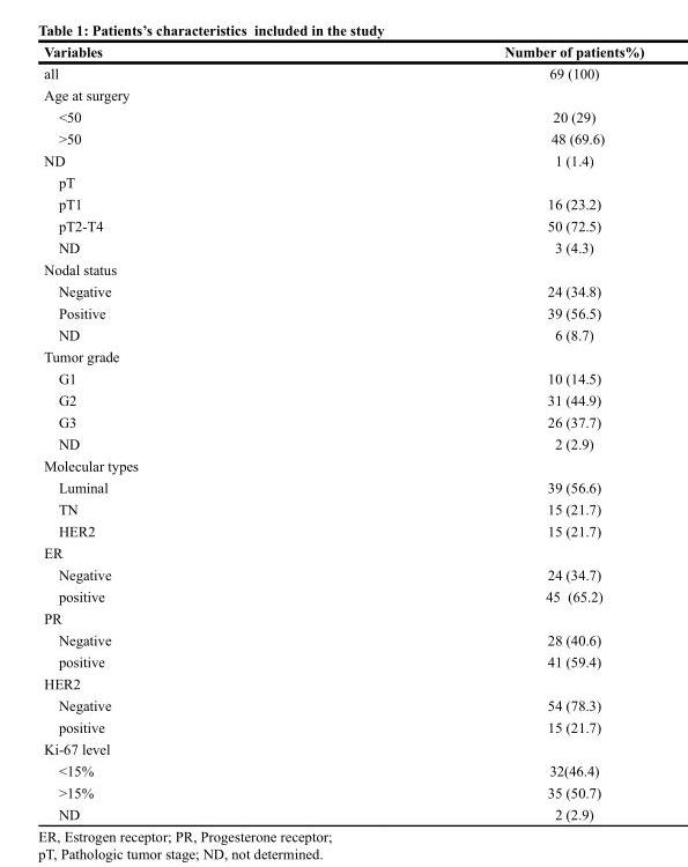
<table><thead><tr><td>Variables</td><td>Number of patients%)</td></tr></thead><tbody><tr><td>all</td><td>69 (100)</td></tr><tr><td colspan="2">Age at surgery</td></tr><tr><td>&lt;50</td><td>20 (29)</td></tr><tr><td>&gt;50</td><td>48 (69.6)</td></tr><tr><td>ND</td><td>1 (1.4)</td></tr><tr><td colspan="2">pT</td></tr><tr><td>pT1</td><td>16 (23.2)</td></tr><tr><td>pT2-T4</td><td>50 (72.5)</td></tr><tr><td>ND</td><td>3 (4.3)</td></tr><tr><td colspan="2">Nodal status</td></tr><tr><td>Negative</td><td>24 (34.8)</td></tr><tr><td>Positive</td><td>39 (56.5)</td></tr><tr><td>ND</td><td>6 (8.7)</td></tr><tr><td colspan="2">Tumor grade</td></tr><tr><td>G1</td><td>10 (14.5)</td></tr><tr><td>G2</td><td>31 (44.9)</td></tr><tr><td>G3</td><td>26 (37.7)</td></tr><tr><td>ND</td><td>2 (2.9)</td></tr><tr><td colspan="2">Molecular types</td></tr><tr><td>Luminal</td><td>39 (56.6)</td></tr><tr><td>TN</td><td>15 (21.7)</td></tr><tr><td>HER2</td><td>15 (21.7)</td></tr><tr><td colspan="2">ER</td></tr><tr><td>Negative</td><td>24 (34.7)</td></tr><tr><td>positive</td><td>45 (65.2)</td></tr><tr><td colspan="2">PR</td></tr><tr><td>Negative</td><td>28 (40.6)</td></tr><tr><td>positive</td><td>41 (59.4)</td></tr><tr><td colspan="2">HER2</td></tr><tr><td>Negative</td><td>54 (78.3)</td></tr><tr><td>positive</td><td>15 (21.7)</td></tr><tr><td colspan="2">Ki-67 level</td></tr><tr><td>&lt;15%</td><td>32(46.4)</td></tr><tr><td>&gt;15%</td><td>35 (50.7)</td></tr><tr><td>ND</td><td>2 (2.9)</td></tr></tbody></table>